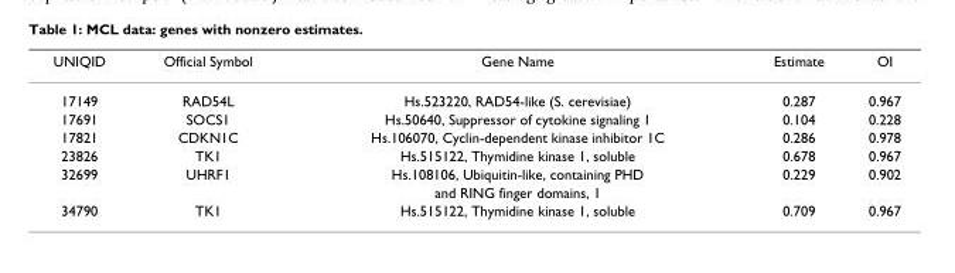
<table><thead><tr><td>UNIQID</td><td>Official Symbol</td><td>Gene Name</td><td>Estimate</td><td>OI</td></tr></thead><tbody><tr><td>17149</td><td>RAD54L</td><td>Hs.523220, RAD54-like (S. cerevisiae)</td><td>0.287</td><td>0.967</td></tr><tr><td>17691</td><td>SOCS1</td><td>Hs.50640, Suppressor of cytokine signaling 1</td><td>0.104</td><td>0.228</td></tr><tr><td>17821</td><td>CDKN1C</td><td>Hs.106070, Cyclin-dependent kinase inhibitor 1C</td><td>0.286</td><td>0.978</td></tr><tr><td>23826</td><td>TK1</td><td>Hs.515122, Thymidine kinase 1, soluble</td><td>0.678</td><td>0.967</td></tr><tr><td rowspan="2">32699</td><td>UHRF1</td><td>Hs.108106, Ubiquitin-like, containing PHD</td><td>0.229</td><td>0.902</td></tr><tr><td></td><td>and RING finger domains, 1</td><td></td><td></td></tr><tr><td>34790</td><td>TK1</td><td>Hs.515122, Thymidine kinase 1, soluble</td><td>0.709</td><td>0.967</td></tr></tbody></table>